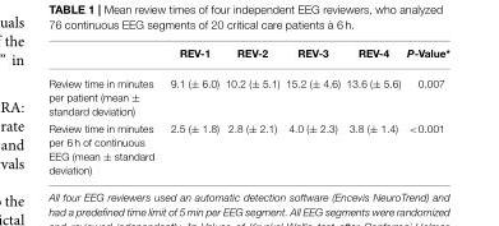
<table><thead><tr><td></td><td>REV-1</td><td>REV-2</td><td>REV-3</td><td>REV-4</td><td>P-Value*</td></tr></thead><tbody><tr><td>Review time in minutes per patient (mean ± standard deviation)</td><td>9.1 (± 6.0)</td><td>10.2 (± 5.1)</td><td>15.2 (± 4.6)</td><td>13.6 (± 5.6)</td><td>0.007</td></tr><tr><td>Review time in minutes per 6 h of continuous EEG (mean ± standard deviation)</td><td>2.5 (± 1.8)</td><td>2.8 (± 2.1)</td><td>4.0 (± 2.3)</td><td>3.8 (± 1.4)</td><td>&lt;0.001</td></tr></tbody></table>